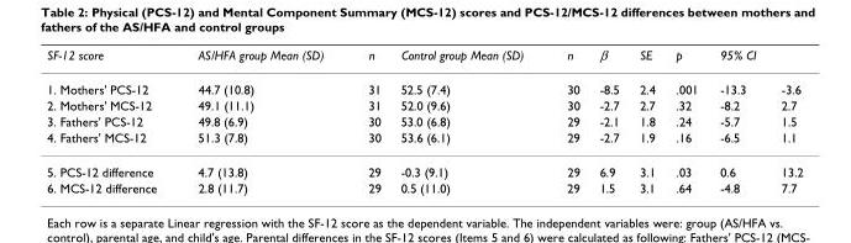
<table><thead><tr><td>SF-12 score</td><td>AS/HFA group Mean (SD)</td><td>n</td><td>Control group Mean (SD)</td><td>n</td><td>β</td><td>SE</td><td>p</td><td>95% CI</td><td></td></tr></thead><tbody><tr><td>1. Mothers&#x27; PCS-12</td><td>44.7 (10.8)</td><td>31</td><td>52.5 (7.4)</td><td>30</td><td>-8.5</td><td>2.4</td><td>.001</td><td>-13.3</td><td>-3.6</td></tr><tr><td>2. Mothers&#x27; MCS-12</td><td>49.1 (11.1)</td><td>31</td><td>52.0 (9.6)</td><td>30</td><td>-2.7</td><td>2.7</td><td>.32</td><td>-8.2</td><td>2.7</td></tr><tr><td>3. Fathers&#x27; PCS-12</td><td>49.8 (6.9)</td><td>30</td><td>53.0 (6.8)</td><td>29</td><td>-2.1</td><td>1.8</td><td>.24</td><td>-5.7</td><td>1.5</td></tr><tr><td>4. Fathers&#x27; MCS-12</td><td>51.3 (7.8)</td><td>30</td><td>53.6 (6.1)</td><td>29</td><td>-2.7</td><td>1.9</td><td>.16</td><td>-6.5</td><td>1.1</td></tr><tr><td>5. PCS-12 difference</td><td>4.7 (13.8)</td><td>29</td><td>-0.3 (9.1)</td><td>29</td><td>6.9</td><td>3.1</td><td>.03</td><td>0.6</td><td>13.2</td></tr><tr><td>6. MCS-12 difference</td><td>2.8 (11.7)</td><td>29</td><td>0.5 (11.0)</td><td>29</td><td>1.5</td><td>3.1</td><td>.64</td><td>-4.8</td><td>7.7</td></tr></tbody></table>